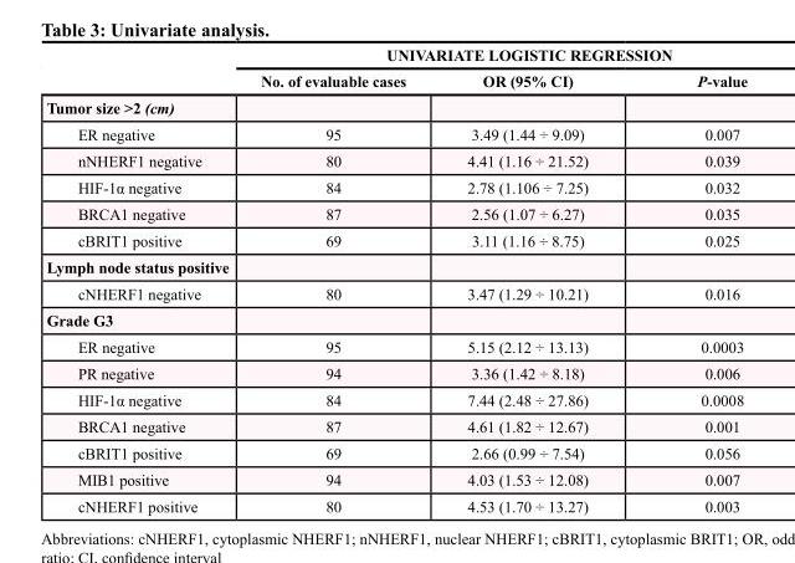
<table><thead><tr><td rowspan="2"></td><td colspan="3">UNIVARIATE LOGISTIC REGRESSION</td></tr><tr><td>No. of evaluable cases</td><td>OR (95% CI)</td><td>P-value</td></tr></thead><tbody><tr><td colspan="4">Tumor size &gt;2 (cm)</td></tr><tr><td>ER negative</td><td>95</td><td>3.49 (1.44 ÷ 9.09)</td><td>0.007</td></tr><tr><td>nNHERF1 negative</td><td>80</td><td>4.41 (1.16 ÷ 21.52)</td><td>0.039</td></tr><tr><td>HIF-1α negative</td><td>84</td><td>2.78 (1.106 ÷ 7.25)</td><td>0.032</td></tr><tr><td>BRCA1 negative</td><td>87</td><td>2.56 (1.07 ÷ 6.27)</td><td>0.035</td></tr><tr><td>cBRIT1 positive</td><td>69</td><td>3.11 (1.16 ÷ 8.75)</td><td>0.025</td></tr><tr><td colspan="4">Lymph node status positive</td></tr><tr><td>cNHERF1 negative</td><td>80</td><td>3.47 (1.29 ÷ 10.21)</td><td>0.016</td></tr><tr><td colspan="4">Grade G3</td></tr><tr><td>ER negative</td><td>95</td><td>5.15 (2.12 ÷ 13.13)</td><td>0.0003</td></tr><tr><td>PR negative</td><td>94</td><td>3.36 (1.42 ÷ 8.18)</td><td>0.006</td></tr><tr><td>HIF-1α negative</td><td>84</td><td>7.44 (2.48 ÷ 27.86)</td><td>0.0008</td></tr><tr><td>BRCA1 negative</td><td>87</td><td>4.61 (1.82 ÷ 12.67)</td><td>0.001</td></tr><tr><td>cBRIT1 positive</td><td>69</td><td>2.66 (0.99 ÷ 7.54)</td><td>0.056</td></tr><tr><td>MIB1 positive</td><td>94</td><td>4.03 (1.53 ÷ 12.08)</td><td>0.007</td></tr><tr><td>cNHERF1 positive</td><td>80</td><td>4.53 (1.70 ÷ 13.27)</td><td>0.003</td></tr></tbody></table>